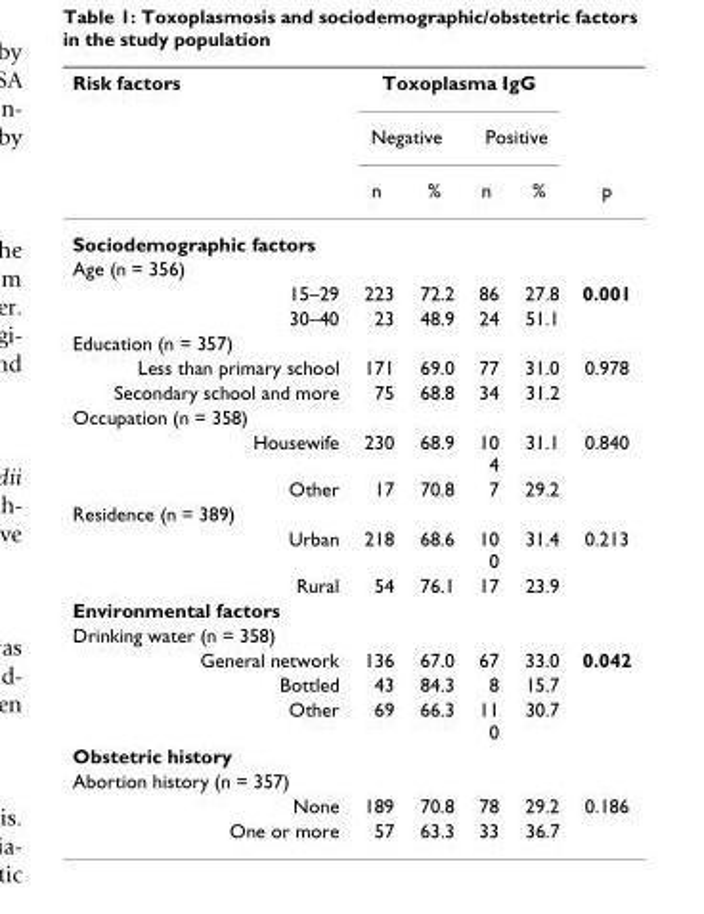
<table><thead><tr><td rowspan="3">Risk factors</td><td colspan="4">Toxoplasma IgG</td><td rowspan="3">p</td></tr><tr><td colspan="2">Negative</td><td colspan="2">Positive</td></tr><tr><td>n</td><td>%</td><td>n</td><td>%</td></tr></thead><tbody><tr><td colspan="6">Sociodemographic factors</td></tr><tr><td colspan="6">Age (n = 356)</td></tr><tr><td>15–29</td><td>223</td><td>72.2</td><td>86</td><td>27.8</td><td>0.001</td></tr><tr><td>30–40</td><td>23</td><td>48.9</td><td>24</td><td>51.1</td><td></td></tr><tr><td colspan="6">Education (n = 357)</td></tr><tr><td>Less than primary school</td><td>171</td><td>69.0</td><td>77</td><td>31.0</td><td>0.978</td></tr><tr><td>Secondary school and more</td><td>75</td><td>68.8</td><td>34</td><td>31.2</td><td></td></tr><tr><td colspan="6">Occupation (n = 358)</td></tr><tr><td>Housewife</td><td>230</td><td>68.9</td><td>10 4</td><td>31.1</td><td>0.840</td></tr><tr><td>Other</td><td>17</td><td>70.8</td><td>7</td><td>29.2</td><td></td></tr><tr><td colspan="6">Residence (n = 389)</td></tr><tr><td>Urban</td><td>218</td><td>68.6</td><td>10 0</td><td>31.4</td><td>0.213</td></tr><tr><td>Rural</td><td>54</td><td>76.1</td><td>17</td><td>23.9</td><td></td></tr><tr><td colspan="6">Environmental factors</td></tr><tr><td colspan="6">Drinking water (n = 358)</td></tr><tr><td>General network</td><td>136</td><td>67.0</td><td>67</td><td>33.0</td><td>0.042</td></tr><tr><td>Bottled</td><td>43</td><td>84.3</td><td>8</td><td>15.7</td><td></td></tr><tr><td>Other</td><td>69</td><td>66.3</td><td>11 0</td><td>30.7</td><td></td></tr><tr><td colspan="6">Obstetric history</td></tr><tr><td colspan="6">Abortion history (n = 357)</td></tr><tr><td>None</td><td>189</td><td>70.8</td><td>78</td><td>29.2</td><td>0.186</td></tr><tr><td>One or more</td><td>57</td><td>63.3</td><td>33</td><td>36.7</td><td></td></tr></tbody></table>